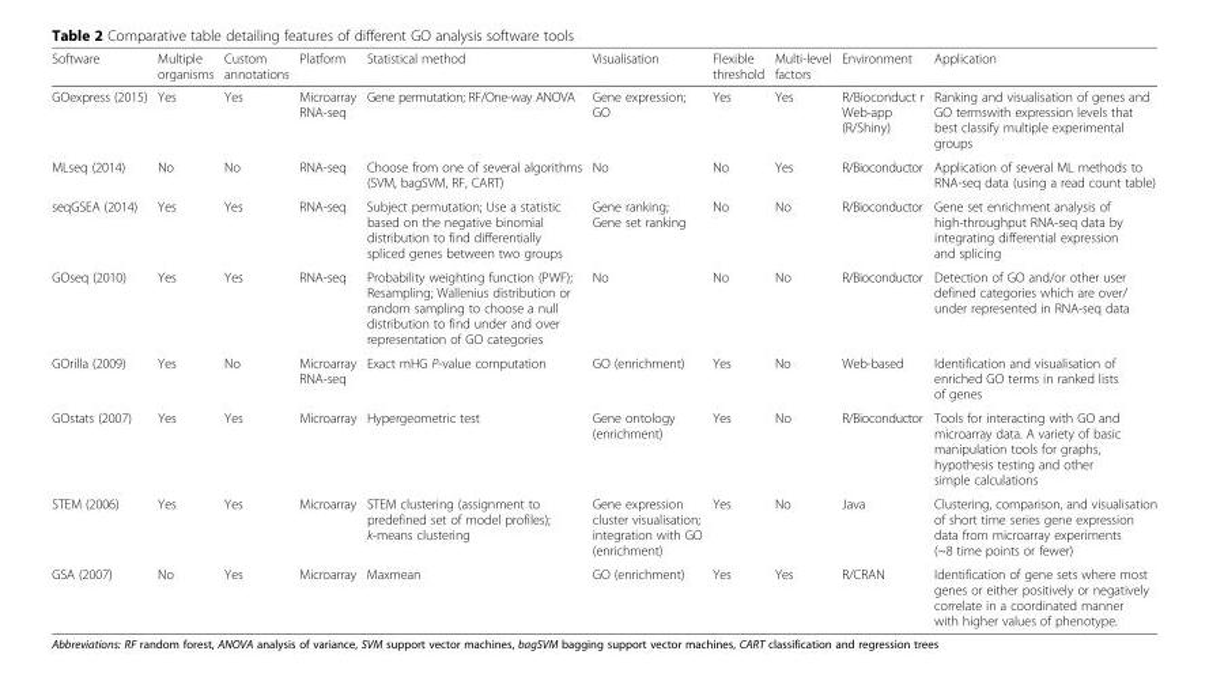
<table><thead><tr><td>Software</td><td>Multiple organisms</td><td>Custom annotations</td><td>Platform</td><td>Statistical method</td><td>Visualisation</td><td>Flexible threshold</td><td>Multi-level factors</td><td>Environment</td><td>Application</td></tr></thead><tbody><tr><td>GOexpress (2015)</td><td>Yes</td><td>Yes</td><td>Microarray RNA-seq</td><td>Gene permutation; RF/One-way ANOVA</td><td>Gene expression; GO</td><td>Yes</td><td>Yes</td><td>R/Bioconduct r Web-app (R/Shiny)</td><td>Ranking and visualisation of genes and GO termswith expression levels that best classify multiple experimental groups</td></tr><tr><td>MLseq (2014)</td><td>No</td><td>No</td><td>RNA-seq</td><td>Choose from one of several algorithms (SVM, bagSVM, RF, CART)</td><td>No</td><td>No</td><td>Yes</td><td>R/Bioconductor</td><td>Application of several ML methods to RNA-seq data (using a read count table)</td></tr><tr><td>seqGSEA (2014)</td><td>Yes</td><td>Yes</td><td>RNA-seq</td><td>Subject permutation; Use a statistic based on the negative binomial distribution to find differentially spliced genes between two groups</td><td>Gene ranking; Gene set ranking</td><td>No</td><td>No</td><td>R/Bioconductor</td><td>Gene set enrichment analysis of high-throughput RNA-seq data by integrating differential expression and splicing</td></tr><tr><td>GOseq (2010)</td><td>Yes</td><td>Yes</td><td>RNA-seq</td><td>Probability weighting function (PWF); Resampling; Wallenius distribution or random sampling to choose a null distribution to find under and over representation of GO categories</td><td>No</td><td>No</td><td>No</td><td>R/Bioconductor</td><td>Detection of GO and/or other user defined categories which are over/ under represented in RNA-seq data</td></tr><tr><td>GOrilla (2009)</td><td>Yes</td><td>No</td><td>Microarray RNA-seq</td><td>Exact mHG P-value computation</td><td>GO (enrichment)</td><td>Yes</td><td>No</td><td>Web-based</td><td>Identification and visualisation of enriched GO terms in ranked lists of genes</td></tr><tr><td>GOstats (2007)</td><td>Yes</td><td>Yes</td><td>Microarray</td><td>Hypergeometric test</td><td>Gene ontology (enrichment)</td><td>Yes</td><td>No</td><td>R/Bioconductor</td><td>Tools for interacting with GO and microarray data. A variety of basic manipulation tools for graphs, hypothesis testing and other simple calculations</td></tr><tr><td>STEM (2006)</td><td>Yes</td><td>Yes</td><td>Microarray</td><td>STEM clustering (assignment to predefined set of model profiles); k-means clustering</td><td>Gene expression cluster visualisation; integration with GO (enrichment)</td><td>Yes</td><td>No</td><td>Java</td><td>Clustering, comparison, and visualisation of short time series gene expression data from microarray experiments (~8 time points or fewer)</td></tr><tr><td>GSA (2007)</td><td>No</td><td>Yes</td><td>Microarray</td><td>Maxmean</td><td>GO (enrichment)</td><td>Yes</td><td>Yes</td><td>R/CRAN</td><td>Identification of gene sets where most genes or either positively or negatively correlate in a coordinated manner with higher values of phenotype.</td></tr></tbody></table>